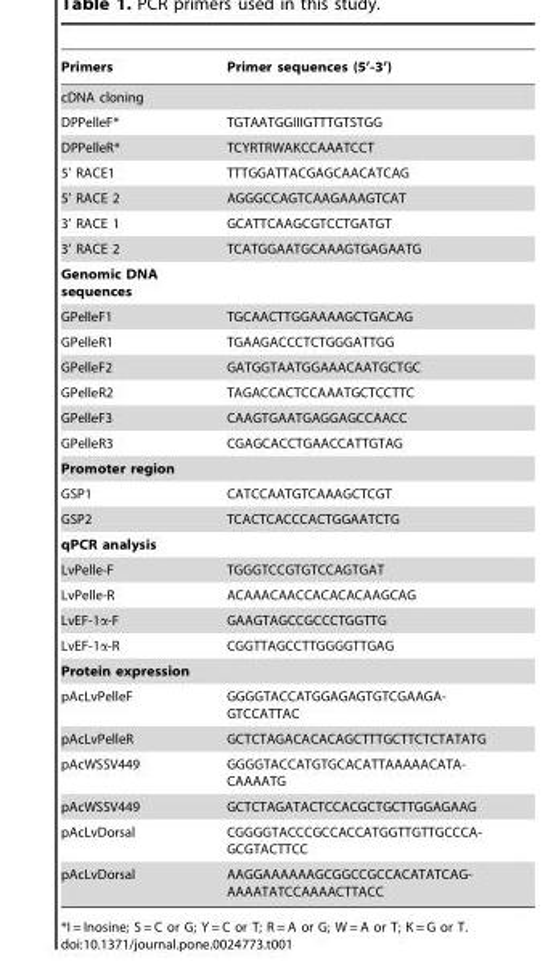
<table><thead><tr><td>Primers</td><td>Primer sequences (5’-3’)</td></tr></thead><tbody><tr><td colspan="2">cDNA cloning</td></tr><tr><td>DPPelleF*</td><td>TGTAATGGIIIGTTTGTSTGG</td></tr><tr><td>DPPelleR*</td><td>TCYRTRWAKCCAAATCCT</td></tr><tr><td>5’ RACE1</td><td>TTTGGATTACGAGCAACATCAG</td></tr><tr><td>5’ RACE 2</td><td>AGGGCCAGTCAAGAAAGTCAT</td></tr><tr><td>3’ RACE 1</td><td>GCATTCAAGCGTCCTGATGT</td></tr><tr><td>3’ RACE 2</td><td>TCATGGAATGCAAAGTGAGAATG</td></tr><tr><td colspan="2">Genomic DNA sequences</td></tr><tr><td>GPelleF1</td><td>TGCAACTTGGAAAAGCTGACAG</td></tr><tr><td>GPelleR1</td><td>TGAAGACCCTCTGGGATTGG</td></tr><tr><td>GPelleF2</td><td>GATGGTAATGGAAACAATGCTGC</td></tr><tr><td>GPelleR2</td><td>TAGACCACTCCAAATGCTCCTTC</td></tr><tr><td>GPelleF3</td><td>CAAGTGAATGAGGAGCCAACC</td></tr><tr><td>GPelleR3</td><td>CGAGCACCTGAACCATTGTAG</td></tr><tr><td colspan="2">Promoter region</td></tr><tr><td>GSP1</td><td>CATCCAATGTCAAAGCTCGT</td></tr><tr><td>GSP2</td><td>TCACTCACCCACTGGAATCTG</td></tr><tr><td colspan="2">qPCR analysis</td></tr><tr><td>LvPelle-F</td><td>TGGGTCCGTGTCCAGTGAT</td></tr><tr><td>LvPelle-R</td><td>ACAAACAACCACACACAAGCAG</td></tr><tr><td>LvEF-1α-F</td><td>GAAGTAGCCGCCCTGGTTG</td></tr><tr><td>LvEF-1α-R</td><td>CGGTTAGCCTTGGGGTTGAG</td></tr><tr><td colspan="2">Protein expression</td></tr><tr><td>pAcLvPelleF</td><td>GGGGTACCATGGAGAGTGTCGAAGA- GTCCATTAC</td></tr><tr><td>pAcLvPelleR</td><td>GCTCTAGACACACAGCTTTGCTTCTCTATATG</td></tr><tr><td>pAcWSSV449</td><td>GGGGTACCATGTGCACATTAAAAACATA- CAAAATG</td></tr><tr><td>pAcWSSV449</td><td>GCTCTAGATACTCCACGCTGCTTGGAGAAG</td></tr><tr><td>pAcLvDorsal</td><td>CGGGGTACCCGCCACCATGGTTGTTGCCCA- GCGTACTTCC</td></tr><tr><td>pAcLvDorsal</td><td>AAGGAAAAAAGCGGCCGCCACATATCAG- AAAATATCCAAAACTTACC</td></tr></tbody></table>